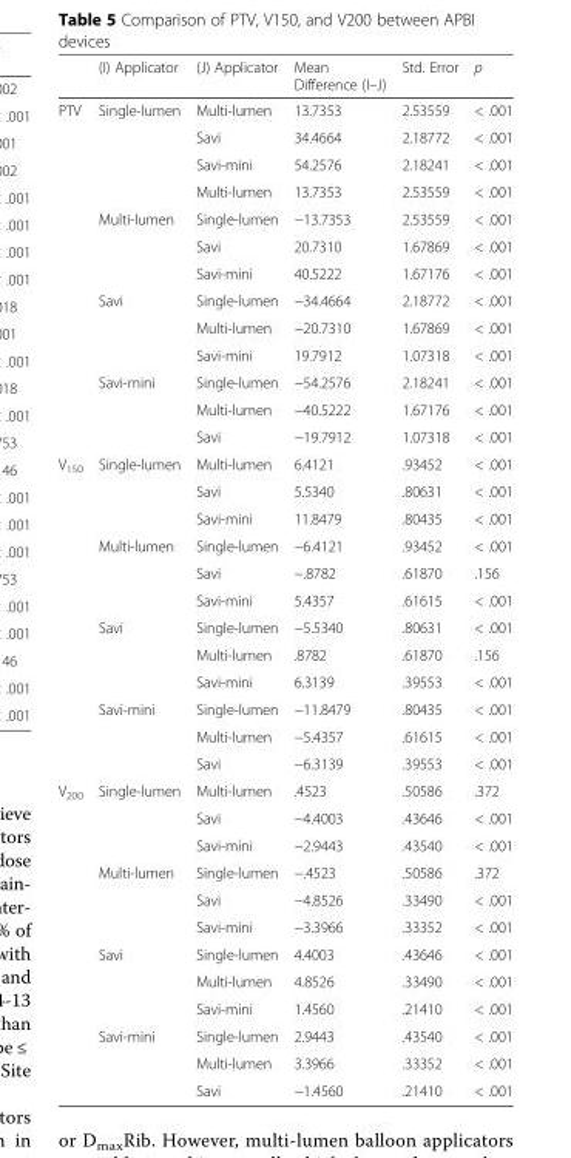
<table><thead><tr><td></td><td>(I) Applicator</td><td>(J) Applicator</td><td>Mean Difference (I–J)</td><td>Std. Error</td><td>p</td></tr></thead><tbody><tr><td rowspan="13">PTV</td><td rowspan="4">Single-lumen</td><td>Multi-lumen</td><td>13.7353</td><td>2.53559</td><td>&lt; .001</td></tr><tr><td>Savi</td><td>34.4664</td><td>2.18772</td><td>&lt; .001</td></tr><tr><td>Savi-mini</td><td>54.2576</td><td>2.18241</td><td>&lt; .001</td></tr><tr><td>Multi-lumen</td><td>13.7353</td><td>2.53559</td><td>&lt; .001</td></tr><tr><td rowspan="3">Multi-lumen</td><td>Single-lumen</td><td>−13.7353</td><td>2.53559</td><td>&lt; .001</td></tr><tr><td>Savi</td><td>20.7310</td><td>1.67869</td><td>&lt; .001</td></tr><tr><td>Savi-mini</td><td>40.5222</td><td>1.67176</td><td>&lt; .001</td></tr><tr><td rowspan="3">Savi</td><td>Single-lumen</td><td>−34.4664</td><td>2.18772</td><td>&lt; .001</td></tr><tr><td>Multi-lumen</td><td>−20.7310</td><td>1.67869</td><td>&lt; .001</td></tr><tr><td>Savi-mini</td><td>19.7912</td><td>1.07318</td><td>&lt; .001</td></tr><tr><td rowspan="3">Savi-mini</td><td>Single-lumen</td><td>−54.2576</td><td>2.18241</td><td>&lt; .001</td></tr><tr><td>Multi-lumen</td><td>−40.5222</td><td>1.67176</td><td>&lt; .001</td></tr><tr><td>Savi</td><td>−19.7912</td><td>1.07318</td><td>&lt; .001</td></tr><tr><td rowspan="12">V<sub>150</sub></td><td rowspan="3">Single-lumen</td><td>Multi-lumen</td><td>6.4121</td><td>.93452</td><td>&lt; .001</td></tr><tr><td>Savi</td><td>5.5340</td><td>.80631</td><td>&lt; .001</td></tr><tr><td>Savi-mini</td><td>11.8479</td><td>.80435</td><td>&lt; .001</td></tr><tr><td rowspan="3">Multi-lumen</td><td>Single-lumen</td><td>−6.4121</td><td>.93452</td><td>&lt; .001</td></tr><tr><td>Savi</td><td>−.8782</td><td>.61870</td><td>.156</td></tr><tr><td>Savi-mini</td><td>5.4357</td><td>.61615</td><td>&lt; .001</td></tr><tr><td rowspan="3">Savi</td><td>Single-lumen</td><td>−5.5340</td><td>.80631</td><td>&lt; .001</td></tr><tr><td>Multi-lumen</td><td>.8782</td><td>.61870</td><td>.156</td></tr><tr><td>Savi-mini</td><td>6.3139</td><td>.39553</td><td>&lt; .001</td></tr><tr><td rowspan="3">Savi-mini</td><td>Single-lumen</td><td>−11.8479</td><td>.80435</td><td>&lt; .001</td></tr><tr><td>Multi-lumen</td><td>−5.4357</td><td>.61615</td><td>&lt; .001</td></tr><tr><td>Savi</td><td>−6.3139</td><td>.39553</td><td>&lt; .001</td></tr><tr><td rowspan="12">V<sub>200</sub></td><td rowspan="3">Single-lumen</td><td>Multi-lumen</td><td>.4523</td><td>.50586</td><td>.372</td></tr><tr><td>Savi</td><td>−4.4003</td><td>.43646</td><td>&lt; .001</td></tr><tr><td>Savi-mini</td><td>−2.9443</td><td>.43540</td><td>&lt; .001</td></tr><tr><td rowspan="3">Multi-lumen</td><td>Single-lumen</td><td>−.4523</td><td>.50586</td><td>.372</td></tr><tr><td>Savi</td><td>−4.8526</td><td>.33490</td><td>&lt; .001</td></tr><tr><td>Savi-mini</td><td>−3.3966</td><td>.33352</td><td>&lt; .001</td></tr><tr><td rowspan="3">Savi</td><td>Single-lumen</td><td>4.4003</td><td>.43646</td><td>&lt; .001</td></tr><tr><td>Multi-lumen</td><td>4.8526</td><td>.33490</td><td>&lt; .001</td></tr><tr><td>Savi-mini</td><td>1.4560</td><td>.21410</td><td>&lt; .001</td></tr><tr><td rowspan="3">Savi-mini</td><td>Single-lumen</td><td>2.9443</td><td>.43540</td><td>&lt; .001</td></tr><tr><td>Multi-lumen</td><td>3.3966</td><td>.33352</td><td>&lt; .001</td></tr><tr><td>Savi</td><td>−1.4560</td><td>.21410</td><td>&lt; .001</td></tr></tbody></table>